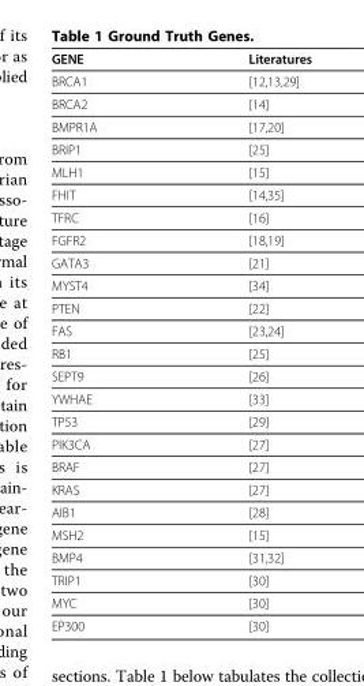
<table><thead><tr><td>GENE</td><td>Literatures</td></tr></thead><tbody><tr><td>BRCA1</td><td>[12,13,29]</td></tr><tr><td>BRCA2</td><td>[14]</td></tr><tr><td>BMPR1A</td><td>[17,20]</td></tr><tr><td>BRIP1</td><td>[25]</td></tr><tr><td>MLH1</td><td>[15]</td></tr><tr><td>FHIT</td><td>[14,35]</td></tr><tr><td>TFRC</td><td>[16]</td></tr><tr><td>FGFR2</td><td>[18,19]</td></tr><tr><td>GATA3</td><td>[21]</td></tr><tr><td>MYST4</td><td>[34]</td></tr><tr><td>PTEN</td><td>[22]</td></tr><tr><td>FAS</td><td>[23,24]</td></tr><tr><td>RB1</td><td>[25]</td></tr><tr><td>SEPT9</td><td>[26]</td></tr><tr><td>YWHAE</td><td>[33]</td></tr><tr><td>TP53</td><td>[29]</td></tr><tr><td>PIK3CA</td><td>[27]</td></tr><tr><td>BRAF</td><td>[27]</td></tr><tr><td>KRAS</td><td>[27]</td></tr><tr><td>AIB1</td><td>[28]</td></tr><tr><td>MSH2</td><td>[15]</td></tr><tr><td>BMP4</td><td>[31,32]</td></tr><tr><td>TRIP1</td><td>[30]</td></tr><tr><td>MYC</td><td>[30]</td></tr><tr><td>EP300</td><td>[30]</td></tr></tbody></table>